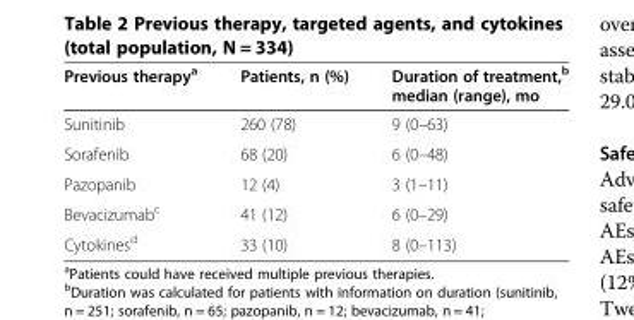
<table><thead><tr><td>Previous therapy<sup>a</sup></td><td>Patients, n (%)</td><td>Duration of treatment,<sup>b</sup> median (range), mo</td></tr></thead><tbody><tr><td>Sunitinib</td><td>260 (78)</td><td>9 (0–63)</td></tr><tr><td>Sorafenib</td><td>68 (20)</td><td>6 (0–48)</td></tr><tr><td>Pazopanib</td><td>12 (4)</td><td>3 (1–11)</td></tr><tr><td>Bevacizumab<sup>c</sup></td><td>41 (12)</td><td>6 (0–29)</td></tr><tr><td>Cytokines<sup>d</sup></td><td>33 (10)</td><td>8 (0–113)</td></tr></tbody></table>